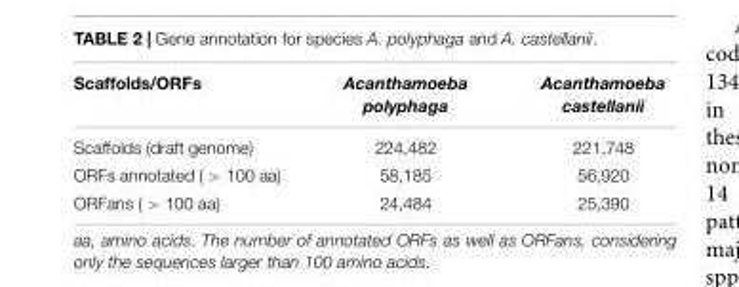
<table><thead><tr><td>Scaffolds/ORFs</td><td>Acanthamoeba polyphaga</td><td>Acanthamoeba castellanii</td></tr></thead><tbody><tr><td>Scaffolds (draft genome)</td><td>224,482</td><td>221,748</td></tr><tr><td>ORFs annotated ( &gt; 100 aa)</td><td>58,185</td><td>56,920</td></tr><tr><td>ORFans ( &gt; 100 aa)</td><td>24,484</td><td>25,390</td></tr></tbody></table>